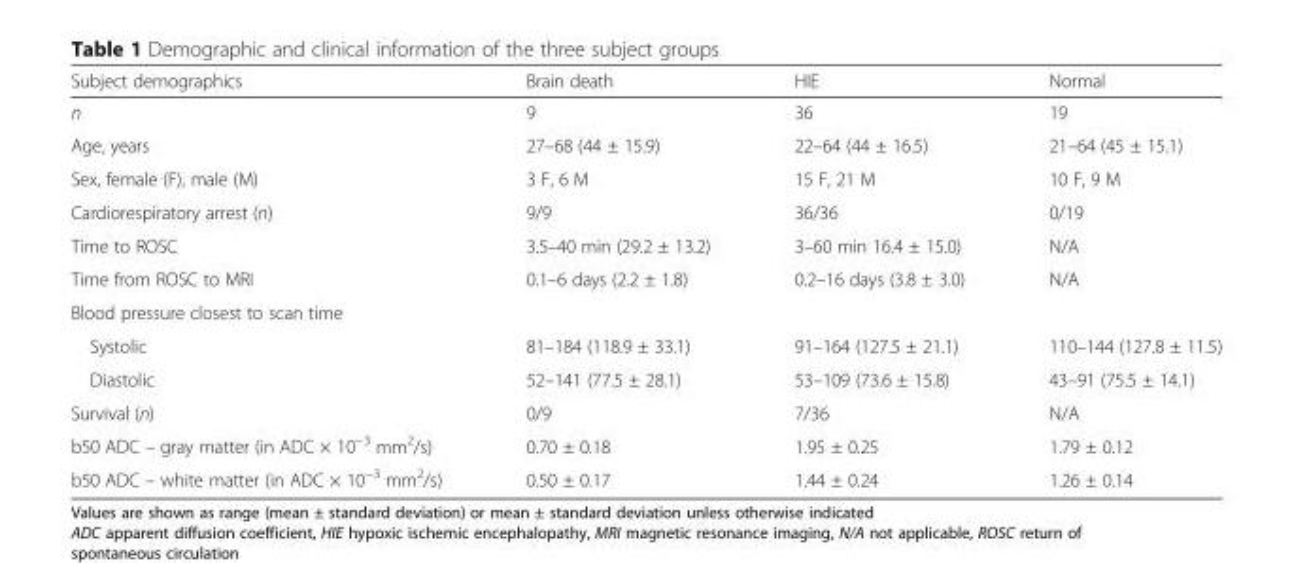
<table><thead><tr><td>Subject demographics</td><td>Brain death</td><td>HIE</td><td>Normal</td></tr></thead><tbody><tr><td>n</td><td>9</td><td>36</td><td>19</td></tr><tr><td>Age, years</td><td>27–68 (44 ± 15.9)</td><td>22–64 (44 ± 16.5)</td><td>21–64 (45 ± 15.1)</td></tr><tr><td>Sex, female (F), male (M)</td><td>3 F, 6 M</td><td>15 F, 21 M</td><td>10 F, 9 M</td></tr><tr><td>Cardiorespiratory arrest (n)</td><td>9/9</td><td>36/36</td><td>0/19</td></tr><tr><td>Time to ROSC</td><td>3.5–40 min (29.2 ± 13.2)</td><td>3–60 min 16.4 ± 15.0)</td><td>N/A</td></tr><tr><td>Time from ROSC to MRI</td><td>0.1–6 days (2.2 ± 1.8)</td><td>0.2–16 days (3.8 ± 3.0)</td><td>N/A</td></tr><tr><td colspan="4">Blood pressure closest to scan time</td></tr><tr><td>Systolic</td><td>81–184 (118.9 ± 33.1)</td><td>91–164 (127.5 ± 21.1)</td><td>110–144 (127.8 ± 11.5)</td></tr><tr><td>Diastolic</td><td>52–141 (77.5 ± 28.1)</td><td>53–109 (73.6 ± 15.8)</td><td>43–91 (75.5 ± 14.1)</td></tr><tr><td>Survival (n)</td><td>0/9</td><td>7/36</td><td>N/A</td></tr><tr><td>b50 ADC – gray matter (in ADC × 10<sup>−3</sup> mm<sup>2</sup>/s)</td><td>0.70 ± 0.18</td><td>1.95 ± 0.25</td><td>1.79 ± 0.12</td></tr><tr><td>b50 ADC – white matter (in ADC × 10<sup>−3</sup> mm<sup>2</sup>/s)</td><td>0.50 ± 0.17</td><td>1.44 ± 0.24</td><td>1.26 ± 0.14</td></tr></tbody></table>